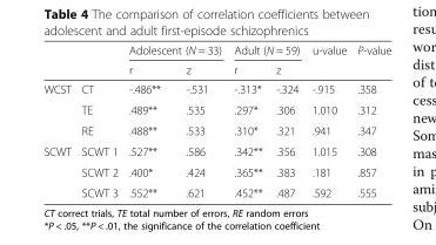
<table><thead><tr><td rowspan="2"></td><td rowspan="2"></td><td colspan="2">Adolescent (N = 33)</td><td colspan="2">Adult (N = 59)</td><td rowspan="2">u-value</td><td rowspan="2">P-value</td></tr><tr><td>r</td><td>z</td><td>r</td><td>z</td></tr></thead><tbody><tr><td rowspan="3">WCST</td><td>CT</td><td>-.486**</td><td>-.531</td><td>-.313*</td><td>-.324</td><td>-.915</td><td>.358</td></tr><tr><td>TE</td><td>.489**</td><td>.535</td><td>.297*</td><td>.306</td><td>1.010</td><td>.312</td></tr><tr><td>RE</td><td>.488**</td><td>.533</td><td>.310*</td><td>.321</td><td>.941</td><td>.347</td></tr><tr><td rowspan="3">SCWT</td><td>SCWT 1</td><td>.527**</td><td>.586</td><td>.342**</td><td>.356</td><td>1.015</td><td>.308</td></tr><tr><td>SCWT 2</td><td>.400*</td><td>.424</td><td>.365**</td><td>.383</td><td>.181</td><td>.857</td></tr><tr><td>SCWT 3</td><td>.552**</td><td>.621</td><td>.452**</td><td>.487</td><td>.592</td><td>.555</td></tr></tbody></table>